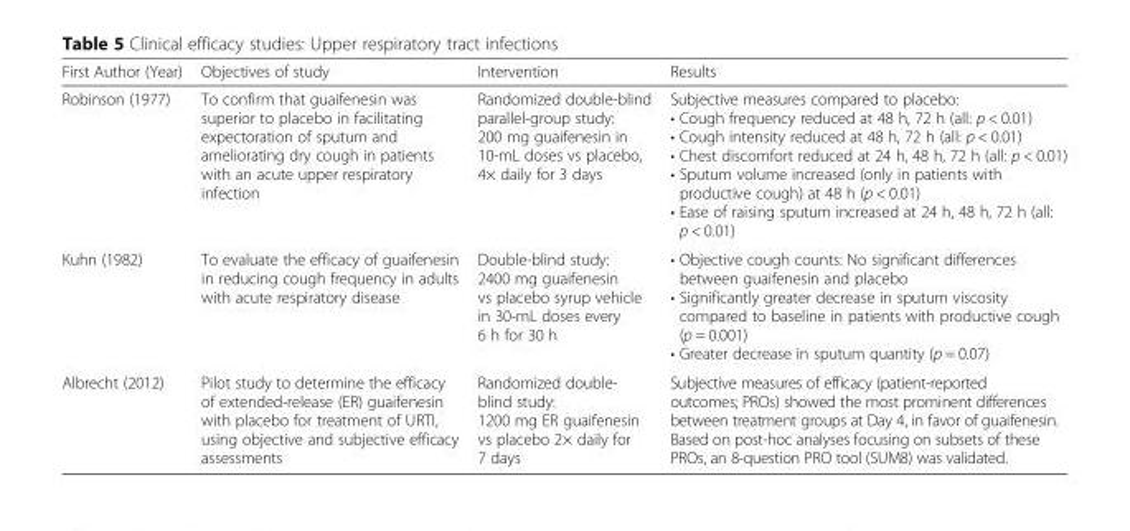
<table><thead><tr><td>First Author (Year)</td><td>Objectives of study</td><td>Intervention</td><td>Results</td></tr></thead><tbody><tr><td>Robinson (1977)</td><td>To confirm that guaifenesin was superior to placebo in facilitating expectoration of sputum and ameliorating dry cough in patients with an acute upper respiratory infection</td><td>Randomized double-blind parallel-group study: 200 mg guaifenesin in 10-mL doses vs placebo, 4× daily for 3 days</td><td>Subjective measures compared to placebo: • Cough frequency reduced at 48 h, 72 h (all: p &lt; 0.01) • Cough intensity reduced at 48 h, 72 h (all: p &lt; 0.01) • Chest discomfort reduced at 24 h, 48 h, 72 h (all: p &lt; 0.01) • Sputum volume increased (only in patients with productive cough) at 48 h (p &lt; 0.01) • Ease of raising sputum increased at 24 h, 48 h, 72 h (all: p &lt; 0.01)</td></tr><tr><td>Kuhn (1982)</td><td>To evaluate the efficacy of guaifenesin in reducing cough frequency in adults with acute respiratory disease</td><td>Double-blind study: 2400 mg guaifenesin vs placebo syrup vehicle in 30-mL doses every 6 h for 30 h</td><td>• Objective cough counts: No significant differences between guaifenesin and placebo • Significantly greater decrease in sputum viscosity compared to baseline in patients with productive cough (p = 0.001) • Greater decrease in sputum quantity (p = 0.07)</td></tr><tr><td>Albrecht (2012)</td><td>Pilot study to determine the efficacy of extended-release (ER) guaifenesin with placebo for treatment of URTI, using objective and subjective efficacy assessments</td><td>Randomized double- blind study: 1200 mg ER guaifenesin vs placebo 2× daily for 7 days</td><td>Subjective measures of efficacy (patient-reported outcomes; PROs) showed the most prominent differences between treatment groups at Day 4, in favor of guaifenesin. Based on post-hoc analyses focusing on subsets of these PROs, an 8-question PRO tool (SUM8) was validated.</td></tr></tbody></table>